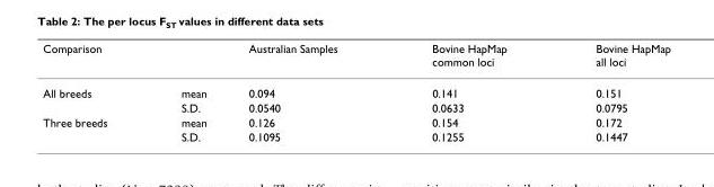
<table><thead><tr><td>Comparison</td><td></td><td>Australian Samples</td><td>Bovine HapMap common loci</td><td>Bovine HapMap all loci</td></tr></thead><tbody><tr><td rowspan="2">All breeds</td><td>mean</td><td>0.094</td><td>0.141</td><td>0.151</td></tr><tr><td>S.D.</td><td>0.0540</td><td>0.0633</td><td>0.0795</td></tr><tr><td rowspan="2">Three breeds</td><td>mean</td><td>0.126</td><td>0.154</td><td>0.172</td></tr><tr><td>S.D.</td><td>0.1095</td><td>0.1255</td><td>0.1447</td></tr></tbody></table>